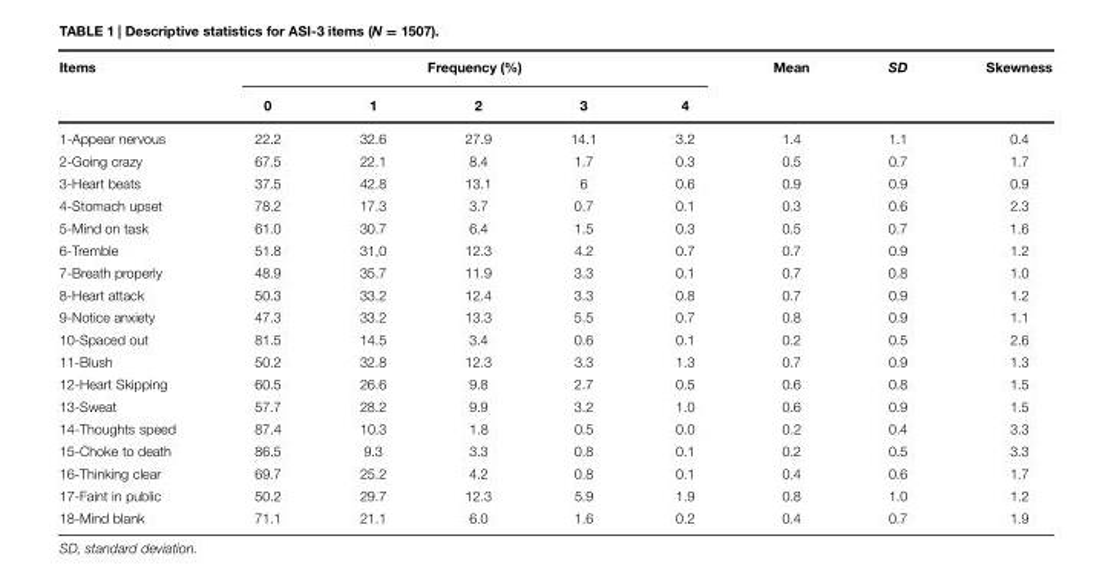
<table><thead><tr><td rowspan="2">Items</td><td colspan="5">Frequency (%)</td><td rowspan="2">Mean</td><td rowspan="2">SD</td><td rowspan="2">Skewness</td></tr><tr><td>0</td><td>1</td><td>2</td><td>3</td><td>4</td></tr></thead><tbody><tr><td>1-Appear nervous</td><td>22.2</td><td>32.6</td><td>27.9</td><td>14.1</td><td>3.2</td><td>1.4</td><td>1.1</td><td>0.4</td></tr><tr><td>2-Going crazy</td><td>67.5</td><td>22.1</td><td>8.4</td><td>1.7</td><td>0.3</td><td>0.5</td><td>0.7</td><td>1.7</td></tr><tr><td>3-Heart beats</td><td>37.5</td><td>42.8</td><td>13.1</td><td>6</td><td>0.6</td><td>0.9</td><td>0.9</td><td>0.9</td></tr><tr><td>4-Stomach upset</td><td>78.2</td><td>17.3</td><td>3.7</td><td>0.7</td><td>0.1</td><td>0.3</td><td>0.6</td><td>2.3</td></tr><tr><td>5-Mind on task</td><td>61.0</td><td>30.7</td><td>6.4</td><td>1.5</td><td>0.3</td><td>0.5</td><td>0.7</td><td>1.6</td></tr><tr><td>6-Tremble</td><td>51.8</td><td>31,0</td><td>12.3</td><td>4.2</td><td>0.7</td><td>0.7</td><td>0.9</td><td>1.2</td></tr><tr><td>7-Breath properly</td><td>48.9</td><td>35.7</td><td>11.9</td><td>3.3</td><td>0.1</td><td>0.7</td><td>0.8</td><td>1.0</td></tr><tr><td>8-Heart attack</td><td>50.3</td><td>33.2</td><td>12.4</td><td>3.3</td><td>0.8</td><td>0.7</td><td>0.9</td><td>1.2</td></tr><tr><td>9-Notice anxiety</td><td>47.3</td><td>33.2</td><td>13.3</td><td>5.5</td><td>0.7</td><td>0.8</td><td>0.9</td><td>1.1</td></tr><tr><td>10-Spaced out</td><td>81.5</td><td>14.5</td><td>3.4</td><td>0.6</td><td>0.1</td><td>0.2</td><td>0.5</td><td>2.6</td></tr><tr><td>11-Blush</td><td>50.2</td><td>32.8</td><td>12.3</td><td>3.3</td><td>1.3</td><td>0.7</td><td>0.9</td><td>1.3</td></tr><tr><td>12-Heart Skipping</td><td>60.5</td><td>26.6</td><td>9.8</td><td>2.7</td><td>0.5</td><td>0.6</td><td>0.8</td><td>1.5</td></tr><tr><td>13-Sweat</td><td>57.7</td><td>28.2</td><td>9.9</td><td>3.2</td><td>1.0</td><td>0.6</td><td>0.9</td><td>1.5</td></tr><tr><td>14-Thoughts speed</td><td>87.4</td><td>10.3</td><td>1.8</td><td>0.5</td><td>0.0</td><td>0.2</td><td>0.4</td><td>3.3</td></tr><tr><td>15-Choke to death</td><td>86.5</td><td>9.3</td><td>3.3</td><td>0.8</td><td>0.1</td><td>0.2</td><td>0.5</td><td>3.3</td></tr><tr><td>16-Thinking clear</td><td>69.7</td><td>25.2</td><td>4.2</td><td>0.8</td><td>0.1</td><td>0.4</td><td>0.6</td><td>1.7</td></tr><tr><td>17-Faint in public</td><td>50.2</td><td>29.7</td><td>12.3</td><td>5.9</td><td>1.9</td><td>0.8</td><td>1.0</td><td>1.2</td></tr><tr><td>18-Mind blank</td><td>71.1</td><td>21.1</td><td>6.0</td><td>1.6</td><td>0.2</td><td>0.4</td><td>0.7</td><td>1.9</td></tr></tbody></table>